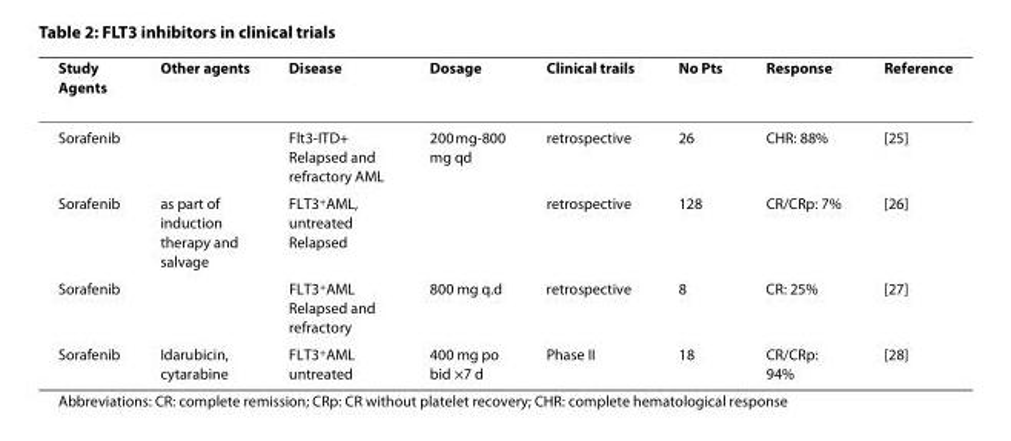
<table><thead><tr><td>Study Agents</td><td>Other agents</td><td>Disease</td><td>Dosage</td><td>Clinical trails</td><td>No Pts</td><td>Response</td><td>Reference</td></tr></thead><tbody><tr><td>Sorafenib</td><td></td><td>Flt3-ITD+ Relapsed and refractory AML</td><td>200 mg-800 mg qd</td><td>retrospective</td><td>26</td><td>CHR: 88%</td><td>[25]</td></tr><tr><td>Sorafenib</td><td>as part of induction therapy and salvage</td><td>FLT3<sup>+</sup>AML, untreated Relapsed</td><td></td><td>retrospective</td><td>128</td><td>CR/CRp: 7%</td><td>[26]</td></tr><tr><td>Sorafenib</td><td></td><td>FLT3<sup>+</sup>AML Relapsed and refractory</td><td>800 mg q.d</td><td>retrospective</td><td>8</td><td>CR: 25%</td><td>[27]</td></tr><tr><td>Sorafenib</td><td>Idarubicin, cytarabine</td><td>FLT3<sup>+</sup>AML untreated</td><td>400 mg po bid ×7 d</td><td>Phase II</td><td>18</td><td>CR/CRp: 94%</td><td>[28]</td></tr></tbody></table>